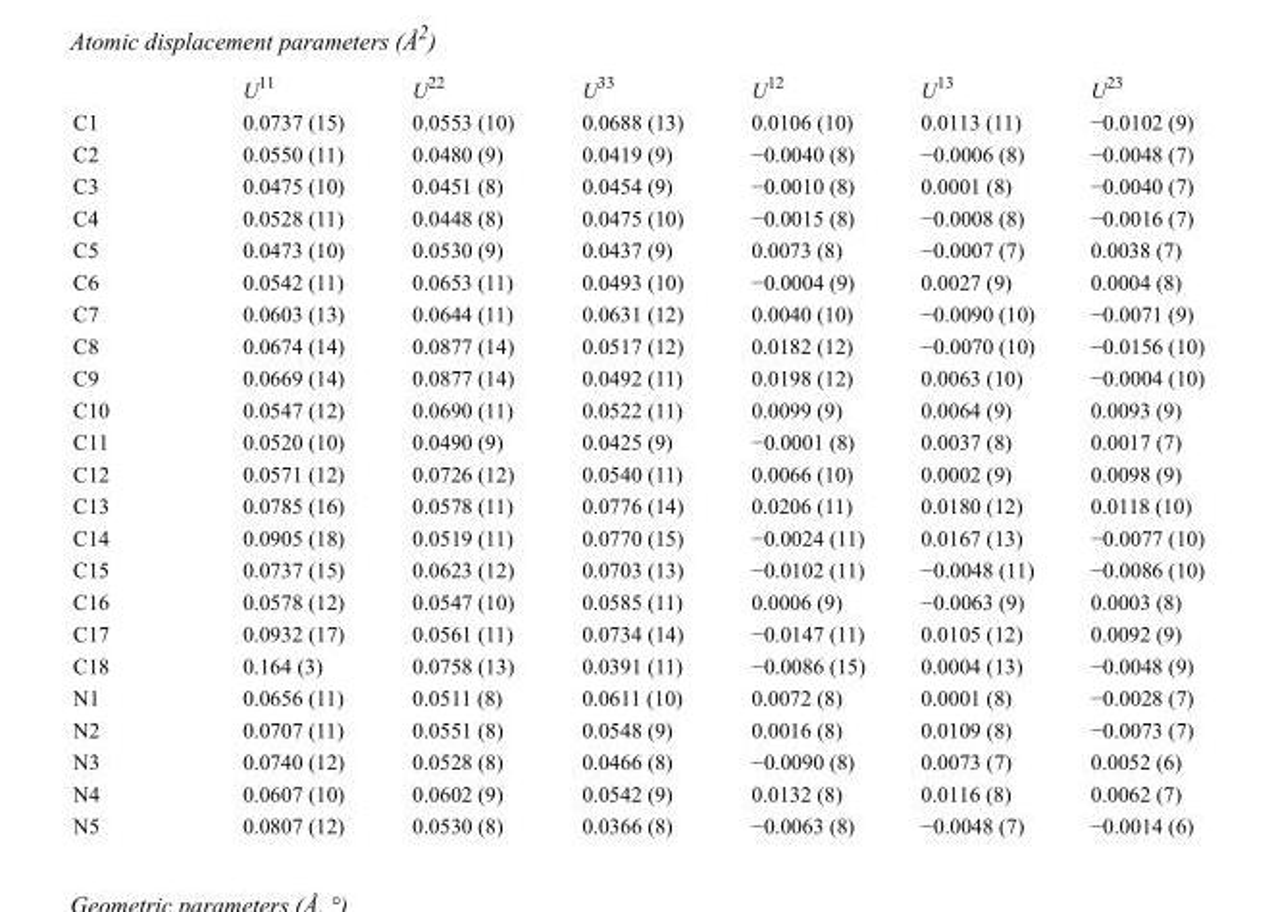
<table><thead><tr><td></td><td>U<sup>11</sup></td><td>U<sup>22</sup></td><td>U<sup>33</sup></td><td>U<sup>12</sup></td><td>U<sup>13</sup></td><td>U<sup>23</sup></td></tr></thead><tbody><tr><td>C1</td><td>0.0737 (15)</td><td>0.0553 (10)</td><td>0.0688 (13)</td><td>0.0106 (10)</td><td>0.0113 (11)</td><td>−0.0102 (9)</td></tr><tr><td>C2</td><td>0.0550 (11)</td><td>0.0480 (9)</td><td>0.0419 (9)</td><td>−0.0040 (8)</td><td>−0.0006 (8)</td><td>−0.0048 (7)</td></tr><tr><td>C3</td><td>0.0475 (10)</td><td>0.0451 (8)</td><td>0.0454 (9)</td><td>−0.0010 (8)</td><td>0.0001 (8)</td><td>−0.0040 (7)</td></tr><tr><td>C4</td><td>0.0528 (11)</td><td>0.0448 (8)</td><td>0.0475 (10)</td><td>−0.0015 (8)</td><td>−0.0008 (8)</td><td>−0.0016 (7)</td></tr><tr><td>C5</td><td>0.0473 (10)</td><td>0.0530 (9)</td><td>0.0437 (9)</td><td>0.0073 (8)</td><td>−0.0007 (7)</td><td>0.0038 (7)</td></tr><tr><td>C6</td><td>0.0542 (11)</td><td>0.0653 (11)</td><td>0.0493 (10)</td><td>−0.0004 (9)</td><td>0.0027 (9)</td><td>0.0004 (8)</td></tr><tr><td>C7</td><td>0.0603 (13)</td><td>0.0644 (11)</td><td>0.0631 (12)</td><td>0.0040 (10)</td><td>−0.0090 (10)</td><td>−0.0071 (9)</td></tr><tr><td>C8</td><td>0.0674 (14)</td><td>0.0877 (14)</td><td>0.0517 (12)</td><td>0.0182 (12)</td><td>−0.0070 (10)</td><td>−0.0156 (10)</td></tr><tr><td>C9</td><td>0.0669 (14)</td><td>0.0877 (14)</td><td>0.0492 (11)</td><td>0.0198 (12)</td><td>0.0063 (10)</td><td>−0.0004 (10)</td></tr><tr><td>C10</td><td>0.0547 (12)</td><td>0.0690 (11)</td><td>0.0522 (11)</td><td>0.0099 (9)</td><td>0.0064 (9)</td><td>0.0093 (9)</td></tr><tr><td>C11</td><td>0.0520 (10)</td><td>0.0490 (9)</td><td>0.0425 (9)</td><td>−0.0001 (8)</td><td>0.0037 (8)</td><td>0.0017 (7)</td></tr><tr><td>C12</td><td>0.0571 (12)</td><td>0.0726 (12)</td><td>0.0540 (11)</td><td>0.0066 (10)</td><td>0.0002 (9)</td><td>0.0098 (9)</td></tr><tr><td>C13</td><td>0.0785 (16)</td><td>0.0578 (11)</td><td>0.0776 (14)</td><td>0.0206 (11)</td><td>0.0180 (12)</td><td>0.0118 (10)</td></tr><tr><td>C14</td><td>0.0905 (18)</td><td>0.0519 (11)</td><td>0.0770 (15)</td><td>−0.0024 (11)</td><td>0.0167 (13)</td><td>−0.0077 (10)</td></tr><tr><td>C15</td><td>0.0737 (15)</td><td>0.0623 (12)</td><td>0.0703 (13)</td><td>−0.0102 (11)</td><td>−0.0048 (11)</td><td>−0.0086 (10)</td></tr><tr><td>C16</td><td>0.0578 (12)</td><td>0.0547 (10)</td><td>0.0585 (11)</td><td>0.0006 (9)</td><td>−0.0063 (9)</td><td>0.0003 (8)</td></tr><tr><td>C17</td><td>0.0932 (17)</td><td>0.0561 (11)</td><td>0.0734 (14)</td><td>−0.0147 (11)</td><td>0.0105 (12)</td><td>0.0092 (9)</td></tr><tr><td>C18</td><td>0.164 (3)</td><td>0.0758 (13)</td><td>0.0391 (11)</td><td>−0.0086 (15)</td><td>0.0004 (13)</td><td>−0.0048 (9)</td></tr><tr><td>N1</td><td>0.0656 (11)</td><td>0.0511 (8)</td><td>0.0611 (10)</td><td>0.0072 (8)</td><td>0.0001 (8)</td><td>−0.0028 (7)</td></tr><tr><td>N2</td><td>0.0707 (11)</td><td>0.0551 (8)</td><td>0.0548 (9)</td><td>0.0016 (8)</td><td>0.0109 (8)</td><td>−0.0073 (7)</td></tr><tr><td>N3</td><td>0.0740 (12)</td><td>0.0528 (8)</td><td>0.0466 (8)</td><td>−0.0090 (8)</td><td>0.0073 (7)</td><td>0.0052 (6)</td></tr><tr><td>N4</td><td>0.0607 (10)</td><td>0.0602 (9)</td><td>0.0542 (9)</td><td>0.0132 (8)</td><td>0.0116 (8)</td><td>0.0062 (7)</td></tr><tr><td>N5</td><td>0.0807 (12)</td><td>0.0530 (8)</td><td>0.0366 (8)</td><td>−0.0063 (8)</td><td>−0.0048 (7)</td><td>−0.0014 (6)</td></tr></tbody></table>